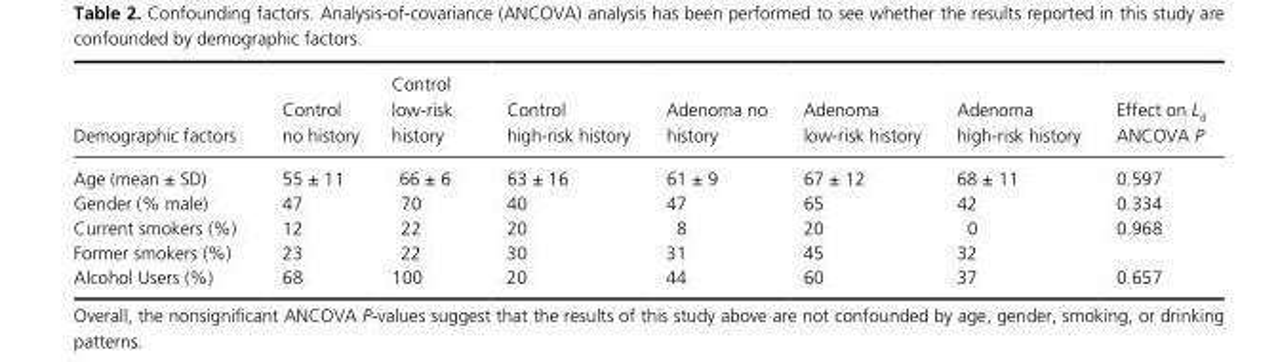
<table><thead><tr><td>Demographic factors</td><td>Control no history</td><td>Control low- risk history</td><td>Control high- risk history</td><td>Adenoma no history</td><td>Adenoma low- risk history</td><td>Adenoma high- risk history</td><td>Effect on L<sub>d</sub> ANCOVA P</td></tr></thead><tbody><tr><td>Age (mean ± SD)</td><td>55 ± 11</td><td>66 ± 6</td><td>63 ± 16</td><td>61 ± 9</td><td>67 ± 12</td><td>68 ± 11</td><td>0.597</td></tr><tr><td>Gender (% male)</td><td>47</td><td>70</td><td>40</td><td>47</td><td>65</td><td>42</td><td>0.334</td></tr><tr><td>Current smokers (%)</td><td>12</td><td>22</td><td>20</td><td>8</td><td>20</td><td>0</td><td>0.968</td></tr><tr><td>Former smokers (%)</td><td>23</td><td>22</td><td>30</td><td>31</td><td>45</td><td>32</td><td></td></tr><tr><td>Alcohol Users (%)</td><td>68</td><td>100</td><td>20</td><td>44</td><td>60</td><td>37</td><td>0.657</td></tr></tbody></table>